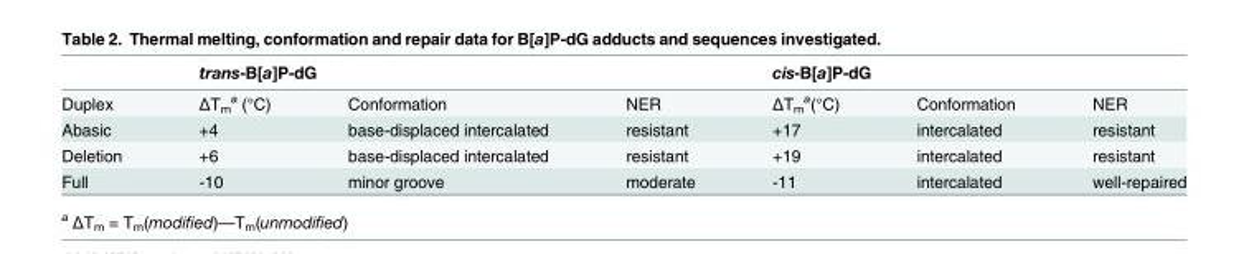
<table><thead><tr><td rowspan="2">Duplex</td><td colspan="3">trans-B[a]P-dG</td><td colspan="3">cis-B[a]P-dG</td></tr><tr><td>ΔT<sub>m</sub> <sup>a</sup> (°C)</td><td>Conformation</td><td>NER</td><td>ΔT<sub>m</sub> <sup>a</sup>(°C)</td><td>Conformation</td><td>NER</td></tr></thead><tbody><tr><td>Abasic</td><td>+4</td><td>base-displaced intercalated</td><td>resistant</td><td>+17</td><td>intercalated</td><td>resistant</td></tr><tr><td>Deletion</td><td>+6</td><td>base-displaced intercalated</td><td>resistant</td><td>+19</td><td>intercalated</td><td>resistant</td></tr><tr><td>Full</td><td>-10</td><td>minor groove</td><td>moderate</td><td>-11</td><td>intercalated</td><td>well-repaired</td></tr></tbody></table>